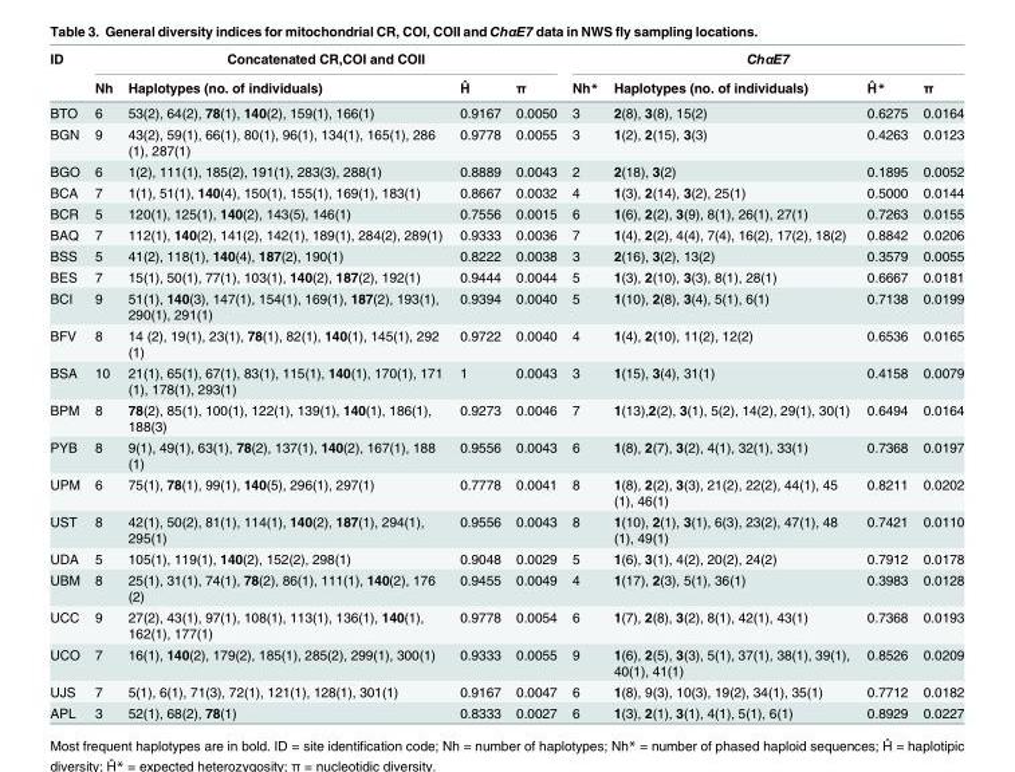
<table><thead><tr><td rowspan="2">ID</td><td colspan="4">Concatenated CR,COI and COII</td><td colspan="4">ChαE7</td></tr><tr><td>Nh</td><td>Haplotypes (no. of individuals)</td><td>Ĥ</td><td>π</td><td>Nh*</td><td>Haplotypes (no. of individuals)</td><td>Ĥ*</td><td>π</td></tr></thead><tbody><tr><td>BTO</td><td>6</td><td>53(2), 64(2), 78(1), 140(2), 159(1), 166(1)</td><td>0.9167</td><td>0.0050</td><td>3</td><td>2(8), 3(8), 15(2)</td><td>0.6275</td><td>0.0164</td></tr><tr><td>BGN</td><td>9</td><td>43(2), 59(1), 66(1), 80(1), 96(1), 134(1), 165(1), 286 (1), 287(1)</td><td>0.9778</td><td>0.0055</td><td>3</td><td>1(2), 2(15), 3(3)</td><td>0.4263</td><td>0.0123</td></tr><tr><td>BGO</td><td>6</td><td>1(2), 111(1), 185(2), 191(1), 283(3), 288(1)</td><td>0.8889</td><td>0.0043</td><td>2</td><td>2(18), 3(2)</td><td>0.1895</td><td>0.0052</td></tr><tr><td>BCA</td><td>7</td><td>1(1), 51(1), 140(4), 150(1), 155(1), 169(1), 183(1)</td><td>0.8667</td><td>0.0032</td><td>4</td><td>1(3), 2(14), 3(2), 25(1)</td><td>0.5000</td><td>0.0144</td></tr><tr><td>BCR</td><td>5</td><td>120(1), 125(1), 140(2), 143(5), 146(1)</td><td>0.7556</td><td>0.0015</td><td>6</td><td>1(6), 2(2), 3(9), 8(1), 26(1), 27(1)</td><td>0.7263</td><td>0.0155</td></tr><tr><td>BAQ</td><td>7</td><td>112(1), 140(2), 141(2), 142(1), 189(1), 284(2), 289(1)</td><td>0.9333</td><td>0.0036</td><td>7</td><td>1(4), 2(2), 4(4), 7(4), 16(2), 17(2), 18(2)</td><td>0.8842</td><td>0.0206</td></tr><tr><td>BSS</td><td>5</td><td>41(2), 118(1), 140(4), 187(2), 190(1)</td><td>0.8222</td><td>0.0038</td><td>3</td><td>2(16), 3(2), 13(2)</td><td>0.3579</td><td>0.0055</td></tr><tr><td>BES</td><td>7</td><td>15(1), 50(1), 77(1), 103(1), 140(2), 187(2), 192(1)</td><td>0.9444</td><td>0.0044</td><td>5</td><td>1(3), 2(10), 3(3), 8(1), 28(1)</td><td>0.6667</td><td>0.0181</td></tr><tr><td>BCI</td><td>9</td><td>51(1), 140(3), 147(1), 154(1), 169(1), 187(2), 193(1), 290(1), 291(1)</td><td>0.9394</td><td>0.0040</td><td>5</td><td>1(10), 2(8), 3(4), 5(1), 6(1)</td><td>0.7138</td><td>0.0199</td></tr><tr><td>BFV</td><td>8</td><td>14 (2), 19(1), 23(1), 78(1), 82(1), 140(1), 145(1), 292 (1)</td><td>0.9722</td><td>0.0040</td><td>4</td><td>1(4), 2(10), 11(2), 12(2)</td><td>0.6536</td><td>0.0165</td></tr><tr><td>BSA</td><td>10</td><td>21(1), 65(1), 67(1), 83(1), 115(1), 140(1), 170(1), 171 (1), 178(1), 293(1)</td><td>1</td><td>0.0043</td><td>3</td><td>1(15), 3(4), 31(1)</td><td>0.4158</td><td>0.0079</td></tr><tr><td>BPM</td><td>8</td><td>78(2), 85(1), 100(1), 122(1), 139(1), 140(1), 186(1), 188(3)</td><td>0.9273</td><td>0.0046</td><td>7</td><td>1(13),2(2), 3(1), 5(2), 14(2), 29(1), 30(1)</td><td>0.6494</td><td>0.0164</td></tr><tr><td>PYB</td><td>8</td><td>9(1), 49(1), 63(1), 78(2), 137(1), 140(2), 167(1), 188 (1)</td><td>0.9556</td><td>0.0043</td><td>6</td><td>1(8), 2(7), 3(2), 4(1), 32(1), 33(1)</td><td>0.7368</td><td>0.0197</td></tr><tr><td>UPM</td><td>6</td><td>75(1), 78(1), 99(1), 140(5), 296(1), 297(1)</td><td>0.7778</td><td>0.0041</td><td>8</td><td>1(8), 2(2), 3(3), 21(2), 22(2), 44(1), 45 (1), 46(1)</td><td>0.8211</td><td>0.0202</td></tr><tr><td>UST</td><td>8</td><td>42(1), 50(2), 81(1), 114(1), 140(2), 187(1), 294(1), 295(1)</td><td>0.9556</td><td>0.0043</td><td>8</td><td>1(10), 2(1), 3(1), 6(3), 23(2), 47(1), 48 (1), 49(1)</td><td>0.7421</td><td>0.0110</td></tr><tr><td>UDA</td><td>5</td><td>105(1), 119(1), 140(2), 152(2), 298(1)</td><td>0.9048</td><td>0.0029</td><td>5</td><td>1(6), 3(1), 4(2), 20(2), 24(2)</td><td>0.7912</td><td>0.0178</td></tr><tr><td>UBM</td><td>8</td><td>25(1), 31(1), 74(1), 78(2), 86(1), 111(1), 140(2), 176 (2)</td><td>0.9455</td><td>0.0049</td><td>4</td><td>1(17), 2(3), 5(1), 36(1)</td><td>0.3983</td><td>0.0128</td></tr><tr><td>UCC</td><td>9</td><td>27(2), 43(1), 97(1), 108(1), 113(1), 136(1), 140(1), 162(1), 177(1)</td><td>0.9778</td><td>0.0054</td><td>6</td><td>1(7), 2(8), 3(2), 8(1), 42(1), 43(1)</td><td>0.7368</td><td>0.0193</td></tr><tr><td>UCO</td><td>7</td><td>16(1), 140(2), 179(2), 185(1), 285(2), 299(1), 300(1)</td><td>0.9333</td><td>0.0055</td><td>9</td><td>1(6), 2(5), 3(3), 5(1), 37(1), 38(1), 39(1), 40(1), 41(1)</td><td>0.8526</td><td>0.0209</td></tr><tr><td>UJS</td><td>7</td><td>5(1), 6(1), 71(3), 72(1), 121(1), 128(1), 301(1)</td><td>0.9167</td><td>0.0047</td><td>6</td><td>1(8), 9(3), 10(3), 19(2), 34(1), 35(1)</td><td>0.7712</td><td>0.0182</td></tr><tr><td>APL</td><td>3</td><td>52(1), 68(2), 78(1)</td><td>0.8333</td><td>0.0027</td><td>6</td><td>1(3), 2(1), 3(1), 4(1), 5(1), 6(1)</td><td>0.8929</td><td>0.0227</td></tr></tbody></table>